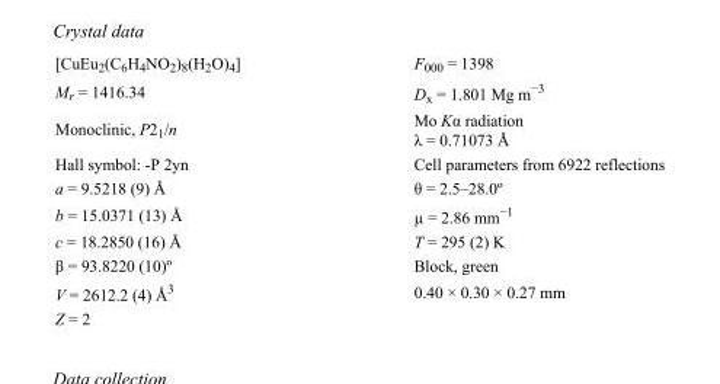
<table><tbody><tr><td>[CuEu<sub>2</sub>(C<sub>6</sub>H<sub>4</sub>NO<sub>2</sub>)<sub>8</sub>(H<sub>2</sub>O)<sub>4</sub>]</td><td>F<sub>000</sub> = 1398</td></tr><tr><td>M<sub>r</sub> = 1416.34</td><td>D<sub>x</sub> = 1.801 Mg m<sup>−3</sup></td></tr><tr><td>Monoclinic, P2<sub>1</sub>/n</td><td>Mo Kα radiation λ = 0.71073 Å</td></tr><tr><td>Hall symbol: -P 2yn</td><td>Cell parameters from 6922 reflections</td></tr><tr><td>a = 9.5218 (9) Å</td><td>θ = 2.5–28.0º</td></tr><tr><td>b = 15.0371 (13) Å</td><td>µ = 2.86 mm<sup>−1</sup></td></tr><tr><td>c = 18.2850 (16) Å</td><td>T = 295 (2) K</td></tr><tr><td>β = 93.8220 (10)º</td><td>Block, green</td></tr><tr><td>V = 2612.2 (4) Å<sup>3</sup></td><td>0.40 × 0.30 × 0.27 mm</td></tr><tr><td>Z = 2</td><td></td></tr></tbody></table>